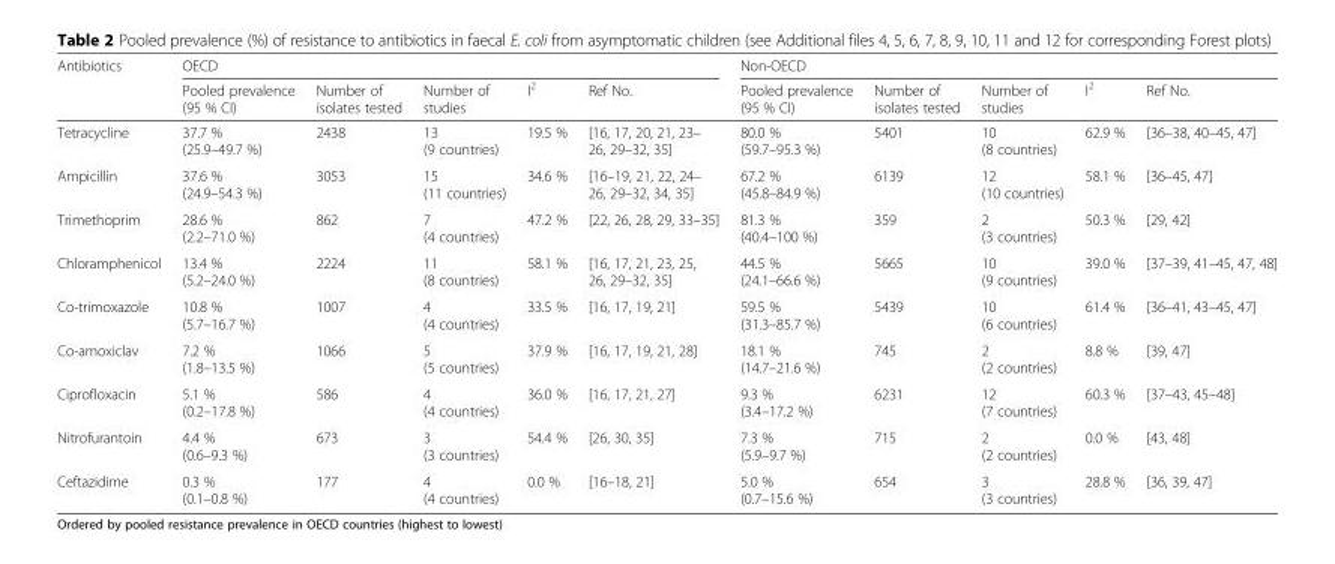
<table><thead><tr><td rowspan="2">Antibiotics</td><td colspan="5">OECD</td><td colspan="5">Non-OECD</td></tr><tr><td>Pooled prevalence (95 % CI)</td><td>Number of isolates tested</td><td>Number of studies</td><td>I<sup>2</sup></td><td>Ref No.</td><td>Pooled prevalence (95 % CI)</td><td>Number of isolates tested</td><td>Number of studies</td><td>I<sup>2</sup></td><td>Ref No.</td></tr></thead><tbody><tr><td>Tetracycline</td><td>37.7 % (25.9–49.7 %)</td><td>2438</td><td>13 (9 countries)</td><td>19.5 %</td><td>[16, 17, 20, 21, 23– 26, 29–32, 35]</td><td>80.0 % (59.7–95.3 %)</td><td>5401</td><td>10 (8 countries)</td><td>62.9 %</td><td>[36–38, 40–45, 47]</td></tr><tr><td>Ampicillin</td><td>37.6 % (24.9–54.3 %)</td><td>3053</td><td>15 (11 countries)</td><td>34.6 %</td><td>[16–19, 21, 22, 24– 26, 29–32, 34, 35]</td><td>67.2 % (45.8–84.9 %)</td><td>6139</td><td>12 (10 countries)</td><td>58.1 %</td><td>[36–45, 47]</td></tr><tr><td>Trimethoprim</td><td>28.6 % (2.2–71.0 %)</td><td>862</td><td>7 (4 countries)</td><td>47.2 %</td><td>[22, 26, 28, 29, 33–35]</td><td>81.3 % (40.4–100 %)</td><td>359</td><td>2 (3 countries)</td><td>50.3 %</td><td>[29, 42]</td></tr><tr><td>Chloramphenicol</td><td>13.4 % (5.2–24.0 %)</td><td>2224</td><td>11 (8 countries)</td><td>58.1 %</td><td>[16, 17, 21, 23, 25, 26, 29–32, 35]</td><td>44.5 % (24.1–66.6 %)</td><td>5665</td><td>10 (9 countries)</td><td>39.0 %</td><td>[37–39, 41–45, 47, 48]</td></tr><tr><td>Co-trimoxazole</td><td>10.8 % (5.7–16.7 %)</td><td>1007</td><td>4 (4 countries)</td><td>33.5 %</td><td>[16, 17, 19, 21]</td><td>59.5 % (31.3–85.7 %)</td><td>5439</td><td>10 (6 countries)</td><td>61.4 %</td><td>[36–41, 43–45, 47]</td></tr><tr><td>Co-amoxiclav</td><td>7.2 % (1.8–13.5 %)</td><td>1066</td><td>5 (5 countries)</td><td>37.9 %</td><td>[16, 17, 19, 21, 28]</td><td>18.1 % (14.7–21.6 %)</td><td>745</td><td>2 (2 countries)</td><td>8.8 %</td><td>[39, 47]</td></tr><tr><td>Ciprofloxacin</td><td>5.1 % (0.2–17.8 %)</td><td>586</td><td>4 (4 countries)</td><td>36.0 %</td><td>[16, 17, 21, 27]</td><td>9.3 % (3.4–17.2 %)</td><td>6231</td><td>12 (7 countries)</td><td>60.3 %</td><td>[37–43, 45–48]</td></tr><tr><td>Nitrofurantoin</td><td>4.4 % (0.6–9.3 %)</td><td>673</td><td>3 (3 countries)</td><td>54.4 %</td><td>[26, 30, 35]</td><td>7.3 % (5.9–9.7 %)</td><td>715</td><td>2 (2 countries)</td><td>0.0 %</td><td>[43, 48]</td></tr><tr><td>Ceftazidime</td><td>0.3 % (0.1–0.8 %)</td><td>177</td><td>4 (4 countries)</td><td>0.0 %</td><td>[16–18, 21]</td><td>5.0 % (0.7–15.6 %)</td><td>654</td><td>3 (3 countries)</td><td>28.8 %</td><td>[36, 39, 47]</td></tr></tbody></table>